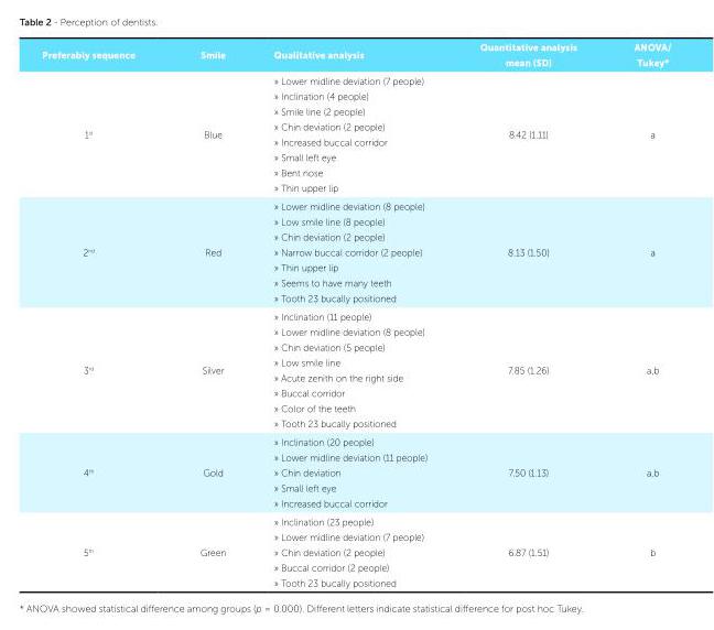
<table><thead><tr><td>Preferably sequence</td><td>Smile</td><td>Qualitative analysis</td><td>Quantitative analysis mean (SD)</td><td>ANOVA/ Tukey*</td></tr></thead><tbody><tr><td>1<sup>st</sup></td><td>Blue</td><td>» Lower midline deviation (7 people) » Inclination (4 people) » Smile line (2 people) » Chin deviation (2 people) » Increased buccal corridor » Small left eye » Bent nose » Thin upper lip</td><td>8.42 (1.11)</td><td>a</td></tr><tr><td>2<sup>nd</sup></td><td>Red</td><td>» Lower midline deviation (8 people) » Low smile line (8 people) » Chin deviation (2 people) » Narrow buccal corridor (2 people) » Thin upper lip » Seems to have many teeth » Tooth 23 bucally positioned</td><td>8.13 (1.50)</td><td>a</td></tr><tr><td>3<sup>rd</sup></td><td>Silver</td><td>» Inclination (11 people) » Lower midline deviation (8 people) » Chin deviation (5 people) » Low smile line » Acute zenith on the right side » Buccal corridor » Color of the teeth » Tooth 23 bucally positioned</td><td>7.85 (1.26)</td><td>a,b</td></tr><tr><td>4<sup>th</sup></td><td>Gold</td><td>» Inclination (20 people) » Lower midline deviation (11 people) » Chin deviation » Small left eye » Increased buccal corridor</td><td>7.50 (1.13)</td><td>a,b</td></tr><tr><td>5<sup>th</sup></td><td>Green</td><td>» Inclination (23 people) » Lower midline deviation (7 people) » Chin deviation (2 people) » Buccal corridor (2 people) » Tooth 23 bucally positioned</td><td>6.87 (1.51)</td><td>b</td></tr></tbody></table>